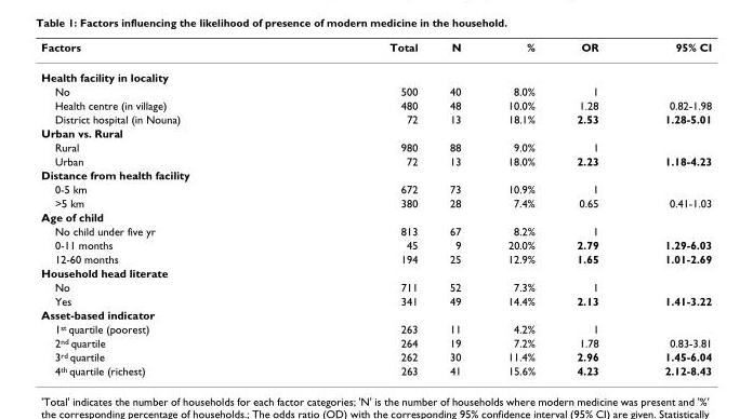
<table><thead><tr><td>Factors</td><td>Total</td><td>N</td><td>%</td><td>OR</td><td>95% CI</td></tr></thead><tbody><tr><td colspan="6">Health facility in locality</td></tr><tr><td>No</td><td>500</td><td>40</td><td>8.0%</td><td>1</td><td></td></tr><tr><td>Health centre (in village)</td><td>480</td><td>48</td><td>10.0%</td><td>1.28</td><td>0.82-1.98</td></tr><tr><td>District hospital (in Nouna)</td><td>72</td><td>13</td><td>18.1%</td><td>2.53</td><td>1.28-5.01</td></tr><tr><td colspan="6">Urban vs. Rural</td></tr><tr><td>Rural</td><td>980</td><td>88</td><td>9.0%</td><td>1</td><td></td></tr><tr><td>Urban</td><td>72</td><td>13</td><td>18.0%</td><td>2.23</td><td>1.18-4.23</td></tr><tr><td colspan="6">Distance from health facility</td></tr><tr><td>0-5 km</td><td>672</td><td>73</td><td>10.9%</td><td>1</td><td></td></tr><tr><td>&gt;5 km</td><td>380</td><td>28</td><td>7.4%</td><td>0.65</td><td>0.41-1.03</td></tr><tr><td colspan="6">Age of child</td></tr><tr><td>No child under five yr</td><td>813</td><td>67</td><td>8.2%</td><td>1</td><td></td></tr><tr><td>0-11 months</td><td>45</td><td>9</td><td>20.0%</td><td>2.79</td><td>1.29-6.03</td></tr><tr><td>12-60 months</td><td>194</td><td>25</td><td>12.9%</td><td>1.65</td><td>1.01-2.69</td></tr><tr><td colspan="6">Household head literate</td></tr><tr><td>No</td><td>711</td><td>52</td><td>7.3%</td><td>1</td><td></td></tr><tr><td>Yes</td><td>341</td><td>49</td><td>14.4%</td><td>2.13</td><td>1.41-3.22</td></tr><tr><td colspan="6">Asset-based indicator</td></tr><tr><td>1<sup>st</sup> quartile (poorest)</td><td>263</td><td>11</td><td>4.2%</td><td>1</td><td></td></tr><tr><td>2<sup>nd</sup> quartile</td><td>264</td><td>19</td><td>7.2%</td><td>1.78</td><td>0.83-3.81</td></tr><tr><td>3<sup>rd</sup> quartile</td><td>262</td><td>30</td><td>11.4%</td><td>2.96</td><td>1.45-6.04</td></tr><tr><td>4<sup>th</sup> quartile (richest)</td><td>263</td><td>41</td><td>15.6%</td><td>4.23</td><td>2.12-8.43</td></tr></tbody></table>